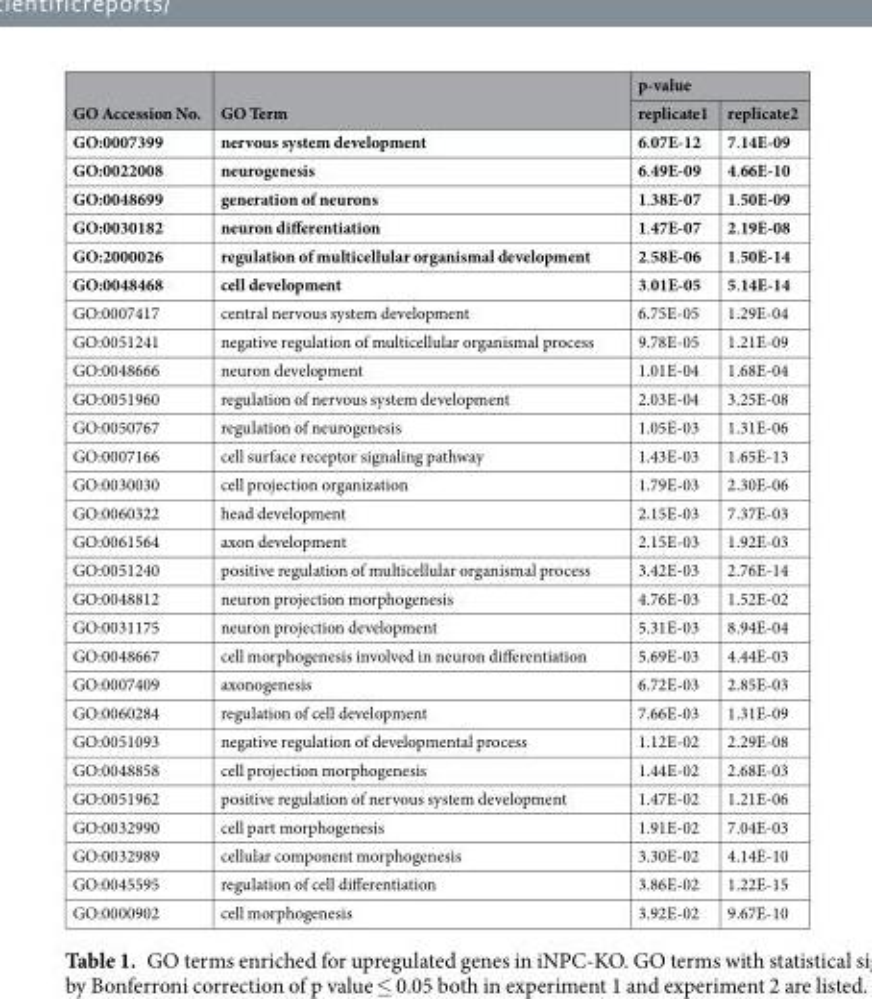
<table><thead><tr><td rowspan="2">GO Accession No.</td><td rowspan="2">GO Term</td><td colspan="2">p-value</td></tr><tr><td>replicate1</td><td>replicate2</td></tr></thead><tbody><tr><td>GO:0007399</td><td>nervous system development</td><td>6.07E-12</td><td>7.14E-09</td></tr><tr><td>GO:0022008</td><td>neurogenesis</td><td>6.49E-09</td><td>4.66E-10</td></tr><tr><td>GO:0048699</td><td>generation of neurons</td><td>1.38E-07</td><td>1.50E-09</td></tr><tr><td>GO:0030182</td><td>neuron differentiation</td><td>1.47E-07</td><td>2.19E-08</td></tr><tr><td>GO:2000026</td><td>regulation of multicellular organismal development</td><td>2.58E-06</td><td>1.50E-14</td></tr><tr><td>GO:0048468</td><td>cell development</td><td>3.01E-05</td><td>5.14E-14</td></tr><tr><td>GO:0007417</td><td>central nervous system development</td><td>6.75E-05</td><td>1.29E-04</td></tr><tr><td>GO:0051241</td><td>negative regulation of multicellular organismal process</td><td>9.78E-05</td><td>1.21E-09</td></tr><tr><td>GO:0048666</td><td>neuron development</td><td>1.01E-04</td><td>1.68E-04</td></tr><tr><td>GO:0051960</td><td>regulation of nervous system development</td><td>2.03E-04</td><td>3.25E-08</td></tr><tr><td>GO:0050767</td><td>regulation of neurogenesis</td><td>1.05E-03</td><td>1.31E-06</td></tr><tr><td>GO:0007166</td><td>cell surface receptor signaling pathway</td><td>1.43E-03</td><td>1.65E-13</td></tr><tr><td>GO:0030030</td><td>cell projection organization</td><td>1.79E-03</td><td>2.30E-06</td></tr><tr><td>GO:0060322</td><td>head development</td><td>2.15E-03</td><td>7.37E-03</td></tr><tr><td>GO:0061564</td><td>axon development</td><td>2.15E-03</td><td>1.92E-03</td></tr><tr><td>GO:0051240</td><td>positive regulation of multicellular organismal process</td><td>3.42E-03</td><td>2.76E-14</td></tr><tr><td>GO:0048812</td><td>neuron projection morphogenesis</td><td>4.76E-03</td><td>1.52E-02</td></tr><tr><td>GO:0031175</td><td>neuron projection development</td><td>5.31E-03</td><td>8.94E-04</td></tr><tr><td>GO:0048667</td><td>cell morphogenesis involved in neuron differentiation</td><td>5.69E-03</td><td>4.44E-03</td></tr><tr><td>GO:0007409</td><td>axonogenesis</td><td>6.72E-03</td><td>2.85E-03</td></tr><tr><td>GO:0060284</td><td>regulation of cell development</td><td>7.66E-03</td><td>1.31E-09</td></tr><tr><td>GO:0051093</td><td>negative regulation of developmental process</td><td>1.12E-02</td><td>2.29E-08</td></tr><tr><td>GO:0048858</td><td>cell projection morphogenesis</td><td>1.44E-02</td><td>2.68E-03</td></tr><tr><td>GO:0051962</td><td>positive regulation of nervous system development</td><td>1.47E-02</td><td>1.21E-06</td></tr><tr><td>GO:0032990</td><td>cell part morphogenesis</td><td>1.91E-02</td><td>7.04E-03</td></tr><tr><td>GO:0032989</td><td>cellular component morphogenesis</td><td>3.30E-02</td><td>4.14E-10</td></tr><tr><td>GO:0045595</td><td>regulation of cell differentiation</td><td>3.86E-02</td><td>1.22E-15</td></tr><tr><td>GO:0000902</td><td>cell morphogenesis</td><td>3.92E-02</td><td>9.67E-10</td></tr></tbody></table>